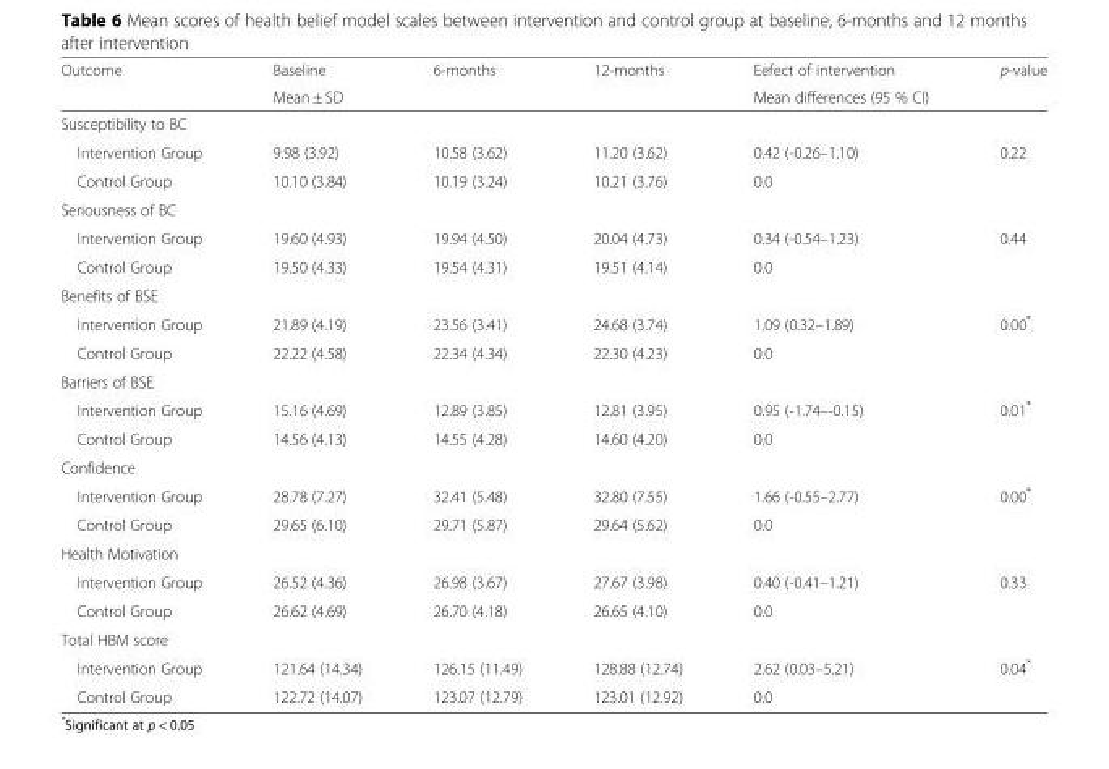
<table><thead><tr><td rowspan="2">Outcome</td><td>Baseline</td><td>6-months</td><td>12-months</td><td rowspan="2">Eefect of intervention Mean differences (95 % CI)</td><td rowspan="2">p-value</td></tr><tr><td colspan="3">Mean ± SD</td></tr></thead><tbody><tr><td colspan="6">Susceptibility to BC</td></tr><tr><td>Intervention Group</td><td>9.98 (3.92)</td><td>10.58 (3.62)</td><td>11.20 (3.62)</td><td>0.42 (-0.26–1.10)</td><td>0.22</td></tr><tr><td>Control Group</td><td>10.10 (3.84)</td><td>10.19 (3.24)</td><td>10.21 (3.76)</td><td>0.0</td><td></td></tr><tr><td colspan="6">Seriousness of BC</td></tr><tr><td>Intervention Group</td><td>19.60 (4.93)</td><td>19.94 (4.50)</td><td>20.04 (4.73)</td><td>0.34 (-0.54–1.23)</td><td>0.44</td></tr><tr><td>Control Group</td><td>19.50 (4.33)</td><td>19.54 (4.31)</td><td>19.51 (4.14)</td><td>0.0</td><td></td></tr><tr><td colspan="6">Benefits of BSE</td></tr><tr><td>Intervention Group</td><td>21.89 (4.19)</td><td>23.56 (3.41)</td><td>24.68 (3.74)</td><td>1.09 (0.32–1.89)</td><td>0.00*</td></tr><tr><td>Control Group</td><td>22.22 (4.58)</td><td>22.34 (4.34)</td><td>22.30 (4.23)</td><td>0.0</td><td></td></tr><tr><td colspan="6">Barriers of BSE</td></tr><tr><td>Intervention Group</td><td>15.16 (4.69)</td><td>12.89 (3.85)</td><td>12.81 (3.95)</td><td>0.95 (-1.74–-0.15)</td><td>0.01*</td></tr><tr><td>Control Group</td><td>14.56 (4.13)</td><td>14.55 (4.28)</td><td>14.60 (4.20)</td><td>0.0</td><td></td></tr><tr><td colspan="6">Confidence</td></tr><tr><td>Intervention Group</td><td>28.78 (7.27)</td><td>32.41 (5.48)</td><td>32.80 (7.55)</td><td>1.66 (-0.55–2.77)</td><td>0.00*</td></tr><tr><td>Control Group</td><td>29.65 (6.10)</td><td>29.71 (5.87)</td><td>29.64 (5.62)</td><td>0.0</td><td></td></tr><tr><td colspan="6">Health Motivation</td></tr><tr><td>Intervention Group</td><td>26.52 (4.36)</td><td>26.98 (3.67)</td><td>27.67 (3.98)</td><td>0.40 (-0.41–1.21)</td><td>0.33</td></tr><tr><td>Control Group</td><td>26.62 (4.69)</td><td>26.70 (4.18)</td><td>26.65 (4.10)</td><td>0.0</td><td></td></tr><tr><td colspan="6">Total HBM score</td></tr><tr><td>Intervention Group</td><td>121.64 (14.34)</td><td>126.15 (11.49)</td><td>128.88 (12.74)</td><td>2.62 (0.03–5.21)</td><td>0.04*</td></tr><tr><td>Control Group</td><td>122.72 (14.07)</td><td>123.07 (12.79)</td><td>123.01 (12.92)</td><td>0.0</td><td></td></tr></tbody></table>